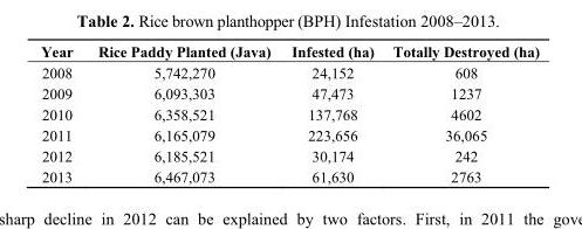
<table><thead><tr><td>Year</td><td>Rice Paddy Planted (Java)</td><td>Infested (ha)</td><td>Totally Destroyed (ha)</td></tr></thead><tbody><tr><td>2008</td><td>5,742,270</td><td>24,152</td><td>608</td></tr><tr><td>2009</td><td>6,093,303</td><td>47,473</td><td>1237</td></tr><tr><td>2010</td><td>6,358,521</td><td>137,768</td><td>4602</td></tr><tr><td>2011</td><td>6,165,079</td><td>223,656</td><td>36,065</td></tr><tr><td>2012</td><td>6,185,521</td><td>30,174</td><td>242</td></tr><tr><td>2013</td><td>6,467,073</td><td>61,630</td><td>2763</td></tr></tbody></table>